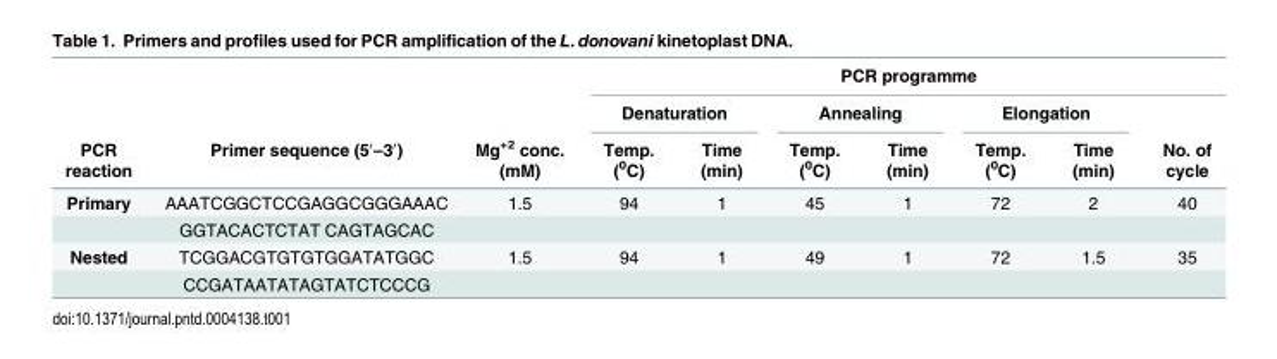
<table><thead><tr><td rowspan="3">PCR reaction</td><td rowspan="3">Primer sequence (5ʹ–3ʹ)</td><td rowspan="3">Mg<sup>+2</sup> conc. (mM)</td><td colspan="7">PCR programme</td></tr><tr><td colspan="2">Denaturation</td><td colspan="2">Annealing</td><td colspan="2">Elongation</td><td rowspan="2">No. of cycle</td></tr><tr><td>Temp. (<sup>0</sup>C)</td><td>Time (min)</td><td>Temp. (<sup>0</sup>C)</td><td>Time (min)</td><td>Temp. (<sup>0</sup>C)</td><td>Time (min)</td></tr></thead><tbody><tr><td rowspan="2">Primary</td><td>AAATCGGCTCCGAGGCGGGAAAC</td><td>1.5</td><td>94</td><td>1</td><td>45</td><td>1</td><td>72</td><td>2</td><td>40</td></tr><tr><td>GGTACACTCTAT CAGTAGCAC</td><td></td><td></td><td></td><td></td><td></td><td></td><td></td><td></td></tr><tr><td rowspan="2">Nested</td><td>TCGGACGTGTGTGGATATGGC</td><td>1.5</td><td>94</td><td>1</td><td>49</td><td>1</td><td>72</td><td>1.5</td><td>35</td></tr><tr><td>CCGATAATATAGTATCTCCCG</td><td></td><td></td><td></td><td></td><td></td><td></td><td></td><td></td></tr></tbody></table>